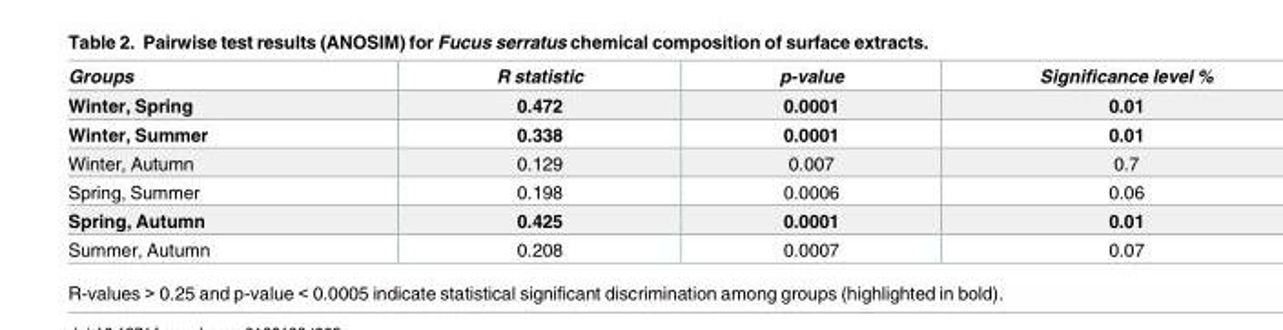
<table><thead><tr><td>Groups</td><td>R statistic</td><td>p-value</td><td>Significance level %</td></tr></thead><tbody><tr><td>Winter, Spring</td><td>0.472</td><td>0.0001</td><td>0.01</td></tr><tr><td>Winter, Summer</td><td>0.338</td><td>0.0001</td><td>0.01</td></tr><tr><td>Winter, Autumn</td><td>0.129</td><td>0.007</td><td>0.7</td></tr><tr><td>Spring, Summer</td><td>0.198</td><td>0.0006</td><td>0.06</td></tr><tr><td>Spring, Autumn</td><td>0.425</td><td>0.0001</td><td>0.01</td></tr><tr><td>Summer, Autumn</td><td>0.208</td><td>0.0007</td><td>0.07</td></tr></tbody></table>